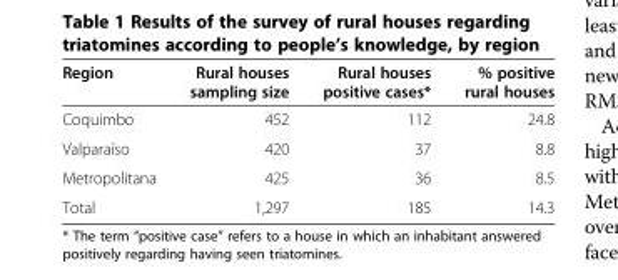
<table><thead><tr><td>Region</td><td>Rural houses sampling size</td><td>Rural houses positive cases*</td><td>% positive rural houses</td></tr></thead><tbody><tr><td>Coquimbo</td><td>452</td><td>112</td><td>24.8</td></tr><tr><td>Valparaíso</td><td>420</td><td>37</td><td>8.8</td></tr><tr><td>Metropolitana</td><td>425</td><td>36</td><td>8.5</td></tr><tr><td>Total</td><td>1,297</td><td>185</td><td>14.3</td></tr></tbody></table>